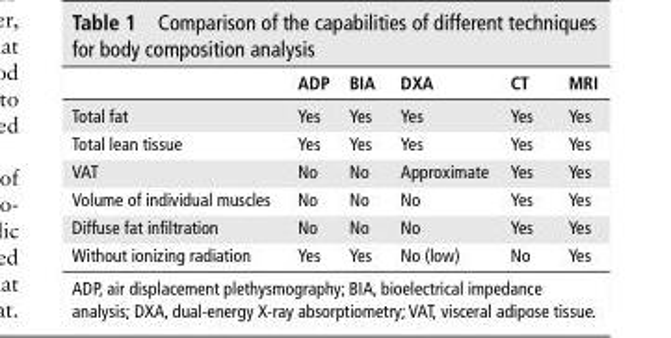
<table><thead><tr><td></td><td>ADP</td><td>bIA</td><td>DXA</td><td>CT</td><td>MRI</td></tr></thead><tbody><tr><td>Total fat</td><td>Yes</td><td>Yes</td><td>Yes</td><td>Yes</td><td>Yes</td></tr><tr><td>Total lean tissue</td><td>Yes</td><td>Yes</td><td>Yes</td><td>Yes</td><td>Yes</td></tr><tr><td>VAT</td><td>No</td><td>No</td><td>Approximate</td><td>Yes</td><td>Yes</td></tr><tr><td>Volume of individual muscles</td><td>No</td><td>No</td><td>No</td><td>Yes</td><td>Yes</td></tr><tr><td>Diffuse fat infiltration</td><td>No</td><td>No</td><td>No</td><td>Yes</td><td>Yes</td></tr><tr><td>Without ionizing radiation</td><td>Yes</td><td>Yes</td><td>No (low)</td><td>No</td><td>Yes</td></tr></tbody></table>